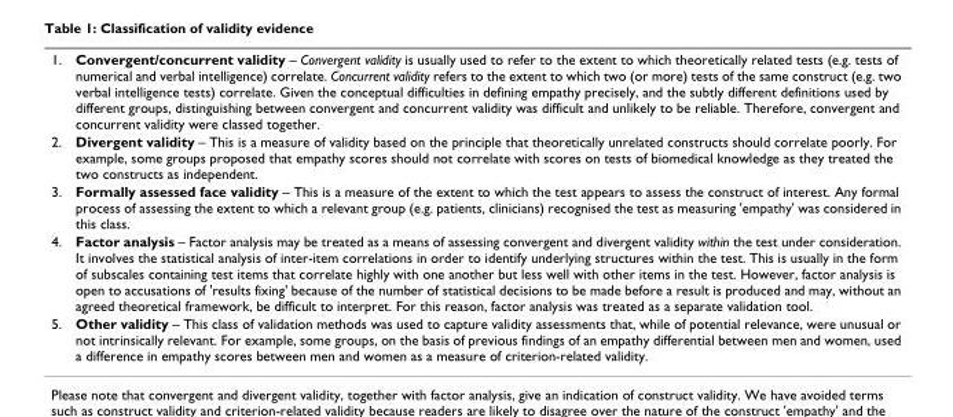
<table><tbody><tr><td>1.</td><td>Convergent/concurrent validity – Convergent validity is usually used to refer to the extent to which theoretically related tests (e.g. tests of numerical and verbal intelligence) correlate. Concurrent validity refers to the extent to which two (or more) tests of the same construct (e.g. two verbal intelligence tests) correlate. Given the conceptual difficulties in defining empathy precisely, and the subtly different definitions used by different groups, distinguishing between convergent and concurrent validity was difficult and unlikely to be reliable. Therefore, convergent and concurrent validity were classed together.</td></tr><tr><td>2.</td><td>Divergent validity – This is a measure of validity based on the principle that theoretically unrelated constructs should correlate poorly. For example, some groups proposed that empathy scores should not correlate with scores on tests of biomedical knowledge as they treated the two constructs as independent.</td></tr><tr><td>3.</td><td>Formally assessed face validity – This is a measure of the extent to which the test appears to assess the construct of interest. Any formal process of assessing the extent to which a relevant group (e.g. patients, clinicians) recognised the test as measuring &#x27;empathy&#x27; was considered in this class.</td></tr><tr><td>4.</td><td>Factor analysis – Factor analysis may be treated as a means of assessing convergent and divergent validity within the test under consideration. It involves the statistical analysis of inter-item correlations in order to identify underlying structures within the test. This is usually in the form of subscales containing test items that correlate highly with one another but less well with other items in the test. However, factor analysis is open to accusations of &#x27;results fixing&#x27; because of the number of statistical decisions to be made before a result is produced and may, without an agreed theoretical framework, be difficult to interpret. For this reason, factor analysis was treated as a separate validation tool.</td></tr><tr><td>5.</td><td>Other validity – This class of validation methods was used to capture validity assessments that, while of potential relevance, were unusual or not intrinsically relevant. For example, some groups, on the basis of previous findings of an empathy differential between men and women, used a difference in empathy scores between men and women as a measure of criterion-related validity.</td></tr></tbody></table>